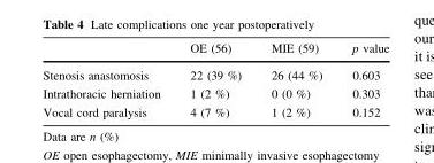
<table><thead><tr><td></td><td>OE (56)</td><td>MIE (59)</td><td>p value</td></tr></thead><tbody><tr><td>Stenosis anastomosis</td><td>22 (39 %)</td><td>26 (44 %)</td><td>0.603</td></tr><tr><td>Intrathoracic herniation</td><td>1 (2 %)</td><td>0 (0 %)</td><td>0.303</td></tr><tr><td>Vocal cord paralysis</td><td>4 (7 %)</td><td>1 (2 %)</td><td>0.152</td></tr></tbody></table>